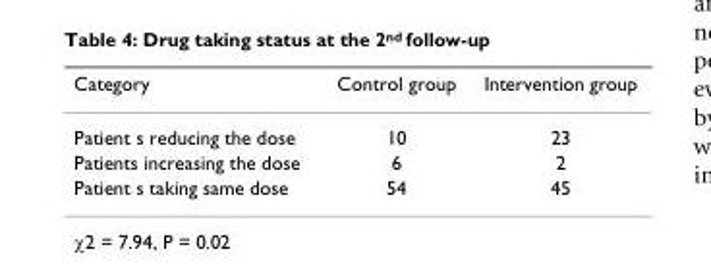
<table><thead><tr><td>Category</td><td>Control group</td><td>Intervention group</td></tr></thead><tbody><tr><td>Patient s reducing the dose</td><td>10</td><td>23</td></tr><tr><td>Patients increasing the dose</td><td>6</td><td>2</td></tr><tr><td>Patient s taking same dose</td><td>54</td><td>45</td></tr></tbody></table>